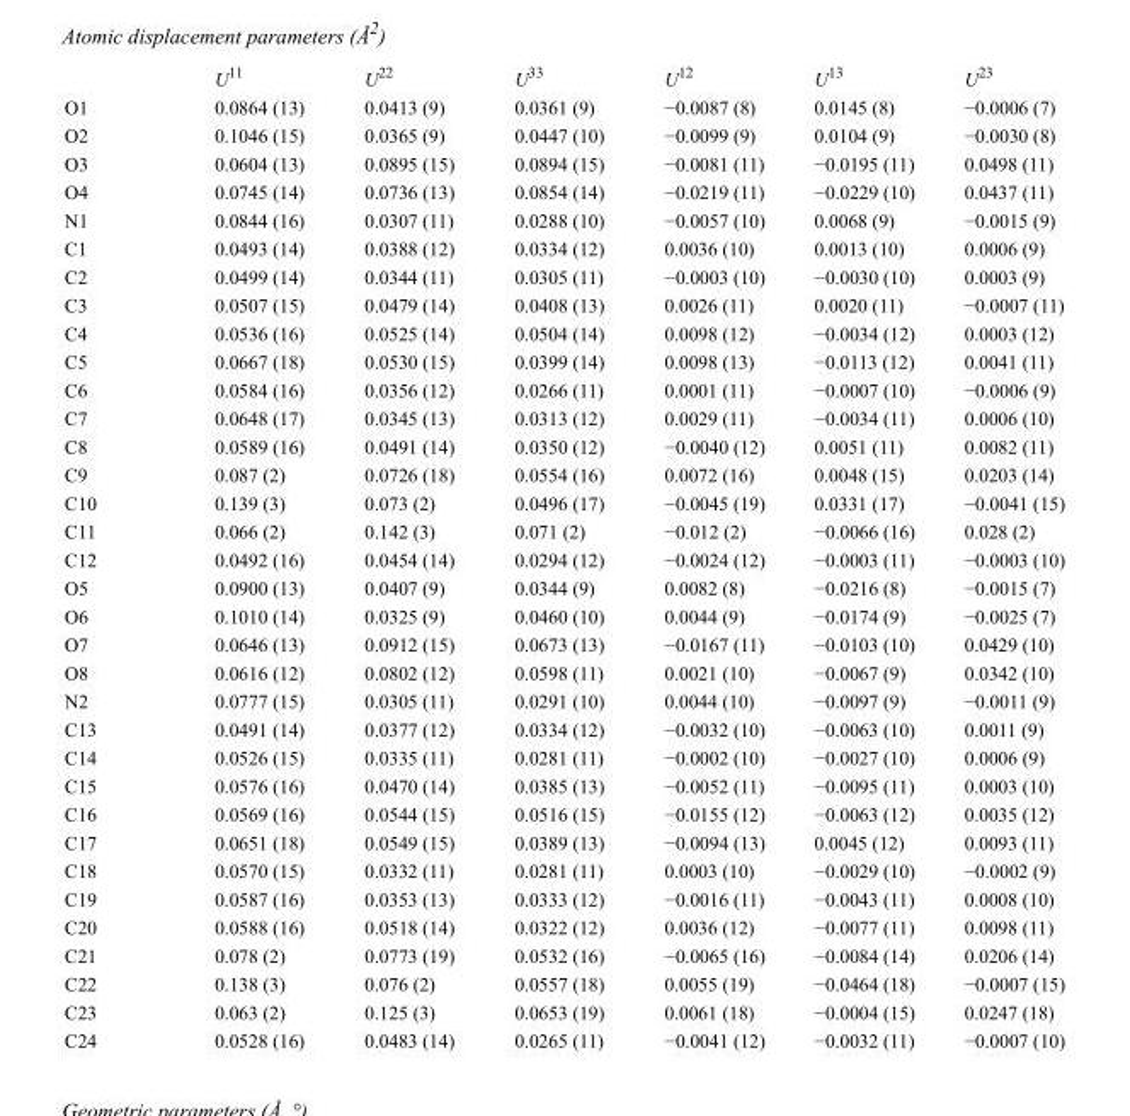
<table><thead><tr><td></td><td>U<sup>11</sup></td><td>U<sup>22</sup></td><td>U<sup>33</sup></td><td>U<sup>12</sup></td><td>U<sup>13</sup></td><td>U<sup>23</sup></td></tr></thead><tbody><tr><td>O1</td><td>0.0864 (13)</td><td>0.0413 (9)</td><td>0.0361 (9)</td><td>−0.0087 (8)</td><td>0.0145 (8)</td><td>−0.0006 (7)</td></tr><tr><td>O2</td><td>0.1046 (15)</td><td>0.0365 (9)</td><td>0.0447 (10)</td><td>−0.0099 (9)</td><td>0.0104 (9)</td><td>−0.0030 (8)</td></tr><tr><td>O3</td><td>0.0604 (13)</td><td>0.0895 (15)</td><td>0.0894 (15)</td><td>−0.0081 (11)</td><td>−0.0195 (11)</td><td>0.0498 (11)</td></tr><tr><td>O4</td><td>0.0745 (14)</td><td>0.0736 (13)</td><td>0.0854 (14)</td><td>−0.0219 (11)</td><td>−0.0229 (10)</td><td>0.0437 (11)</td></tr><tr><td>N1</td><td>0.0844 (16)</td><td>0.0307 (11)</td><td>0.0288 (10)</td><td>−0.0057 (10)</td><td>0.0068 (9)</td><td>−0.0015 (9)</td></tr><tr><td>C1</td><td>0.0493 (14)</td><td>0.0388 (12)</td><td>0.0334 (12)</td><td>0.0036 (10)</td><td>0.0013 (10)</td><td>0.0006 (9)</td></tr><tr><td>C2</td><td>0.0499 (14)</td><td>0.0344 (11)</td><td>0.0305 (11)</td><td>−0.0003 (10)</td><td>−0.0030 (10)</td><td>0.0003 (9)</td></tr><tr><td>C3</td><td>0.0507 (15)</td><td>0.0479 (14)</td><td>0.0408 (13)</td><td>0.0026 (11)</td><td>0.0020 (11)</td><td>−0.0007 (11)</td></tr><tr><td>C4</td><td>0.0536 (16)</td><td>0.0525 (14)</td><td>0.0504 (14)</td><td>0.0098 (12)</td><td>−0.0034 (12)</td><td>0.0003 (12)</td></tr><tr><td>C5</td><td>0.0667 (18)</td><td>0.0530 (15)</td><td>0.0399 (14)</td><td>0.0098 (13)</td><td>−0.0113 (12)</td><td>0.0041 (11)</td></tr><tr><td>C6</td><td>0.0584 (16)</td><td>0.0356 (12)</td><td>0.0266 (11)</td><td>0.0001 (11)</td><td>−0.0007 (10)</td><td>−0.0006 (9)</td></tr><tr><td>C7</td><td>0.0648 (17)</td><td>0.0345 (13)</td><td>0.0313 (12)</td><td>0.0029 (11)</td><td>−0.0034 (11)</td><td>0.0006 (10)</td></tr><tr><td>C8</td><td>0.0589 (16)</td><td>0.0491 (14)</td><td>0.0350 (12)</td><td>−0.0040 (12)</td><td>0.0051 (11)</td><td>0.0082 (11)</td></tr><tr><td>C9</td><td>0.087 (2)</td><td>0.0726 (18)</td><td>0.0554 (16)</td><td>0.0072 (16)</td><td>0.0048 (15)</td><td>0.0203 (14)</td></tr><tr><td>C10</td><td>0.139 (3)</td><td>0.073 (2)</td><td>0.0496 (17)</td><td>−0.0045 (19)</td><td>0.0331 (17)</td><td>−0.0041 (15)</td></tr><tr><td>C11</td><td>0.066 (2)</td><td>0.142 (3)</td><td>0.071 (2)</td><td>−0.012 (2)</td><td>−0.0066 (16)</td><td>0.028 (2)</td></tr><tr><td>C12</td><td>0.0492 (16)</td><td>0.0454 (14)</td><td>0.0294 (12)</td><td>−0.0024 (12)</td><td>−0.0003 (11)</td><td>−0.0003 (10)</td></tr><tr><td>O5</td><td>0.0900 (13)</td><td>0.0407 (9)</td><td>0.0344 (9)</td><td>0.0082 (8)</td><td>−0.0216 (8)</td><td>−0.0015 (7)</td></tr><tr><td>O6</td><td>0.1010 (14)</td><td>0.0325 (9)</td><td>0.0460 (10)</td><td>0.0044 (9)</td><td>−0.0174 (9)</td><td>−0.0025 (7)</td></tr><tr><td>O7</td><td>0.0646 (13)</td><td>0.0912 (15)</td><td>0.0673 (13)</td><td>−0.0167 (11)</td><td>−0.0103 (10)</td><td>0.0429 (10)</td></tr><tr><td>O8</td><td>0.0616 (12)</td><td>0.0802 (12)</td><td>0.0598 (11)</td><td>0.0021 (10)</td><td>−0.0067 (9)</td><td>0.0342 (10)</td></tr><tr><td>N2</td><td>0.0777 (15)</td><td>0.0305 (11)</td><td>0.0291 (10)</td><td>0.0044 (10)</td><td>−0.0097 (9)</td><td>−0.0011 (9)</td></tr><tr><td>C13</td><td>0.0491 (14)</td><td>0.0377 (12)</td><td>0.0334 (12)</td><td>−0.0032 (10)</td><td>−0.0063 (10)</td><td>0.0011 (9)</td></tr><tr><td>C14</td><td>0.0526 (15)</td><td>0.0335 (11)</td><td>0.0281 (11)</td><td>−0.0002 (10)</td><td>−0.0027 (10)</td><td>0.0006 (9)</td></tr><tr><td>C15</td><td>0.0576 (16)</td><td>0.0470 (14)</td><td>0.0385 (13)</td><td>−0.0052 (11)</td><td>−0.0095 (11)</td><td>0.0003 (10)</td></tr><tr><td>C16</td><td>0.0569 (16)</td><td>0.0544 (15)</td><td>0.0516 (15)</td><td>−0.0155 (12)</td><td>−0.0063 (12)</td><td>0.0035 (12)</td></tr><tr><td>C17</td><td>0.0651 (18)</td><td>0.0549 (15)</td><td>0.0389 (13)</td><td>−0.0094 (13)</td><td>0.0045 (12)</td><td>0.0093 (11)</td></tr><tr><td>C18</td><td>0.0570 (15)</td><td>0.0332 (11)</td><td>0.0281 (11)</td><td>0.0003 (10)</td><td>−0.0029 (10)</td><td>−0.0002 (9)</td></tr><tr><td>C19</td><td>0.0587 (16)</td><td>0.0353 (13)</td><td>0.0333 (12)</td><td>−0.0016 (11)</td><td>−0.0043 (11)</td><td>0.0008 (10)</td></tr><tr><td>C20</td><td>0.0588 (16)</td><td>0.0518 (14)</td><td>0.0322 (12)</td><td>0.0036 (12)</td><td>−0.0077 (11)</td><td>0.0098 (11)</td></tr><tr><td>C21</td><td>0.078 (2)</td><td>0.0773 (19)</td><td>0.0532 (16)</td><td>−0.0065 (16)</td><td>−0.0084 (14)</td><td>0.0206 (14)</td></tr><tr><td>C22</td><td>0.138 (3)</td><td>0.076 (2)</td><td>0.0557 (18)</td><td>0.0055 (19)</td><td>−0.0464 (18)</td><td>−0.0007 (15)</td></tr><tr><td>C23</td><td>0.063 (2)</td><td>0.125 (3)</td><td>0.0653 (19)</td><td>0.0061 (18)</td><td>−0.0004 (15)</td><td>0.0247 (18)</td></tr><tr><td>C24</td><td>0.0528 (16)</td><td>0.0483 (14)</td><td>0.0265 (11)</td><td>−0.0041 (12)</td><td>−0.0032 (11)</td><td>−0.0007 (10)</td></tr></tbody></table>